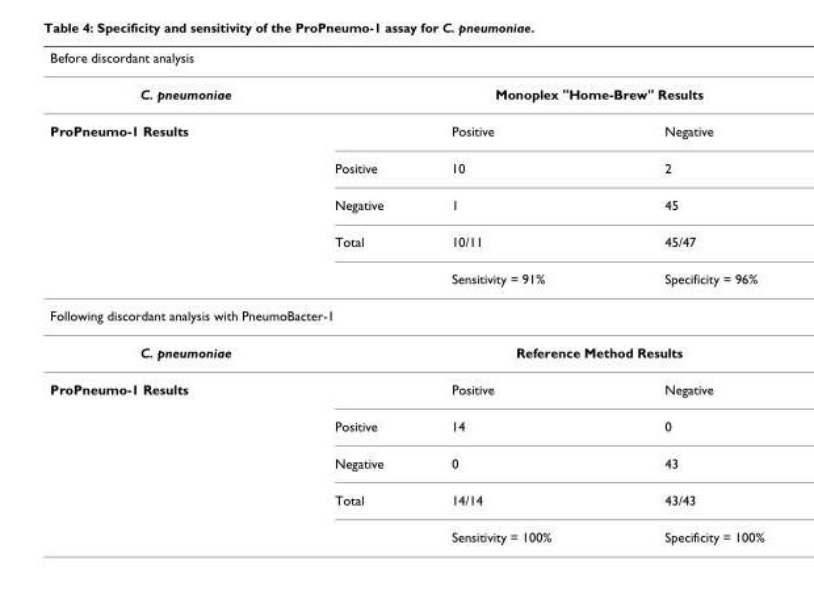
<table><thead><tr><td colspan="4">Before discordant analysis</td></tr><tr><td rowspan="2">C. pneumoniae ProPneumo-1 Results</td><td colspan="3">Monoplex &quot;Home-Brew&quot; Results</td></tr><tr><td></td><td>Positive</td><td>Negative</td></tr></thead><tbody><tr><td></td><td>Positive</td><td>10</td><td>2</td></tr><tr><td></td><td>Negative</td><td>1</td><td>45</td></tr><tr><td></td><td>Total</td><td>10/11</td><td>45/47</td></tr><tr><td></td><td></td><td>Sensitivity = 91%</td><td>Specificity = 96%</td></tr><tr><td colspan="4">Following discordant analysis with PneumoBacter-1</td></tr><tr><td>C. pneumoniae</td><td colspan="3">Reference Method Results</td></tr><tr><td rowspan="5">ProPneumo-1 Results</td><td></td><td>Positive</td><td>Negative</td></tr><tr><td>Positive</td><td>14</td><td>0</td></tr><tr><td>Negative</td><td>0</td><td>43</td></tr><tr><td>Total</td><td>14/14</td><td>43/43</td></tr><tr><td></td><td>Sensitivity = 100%</td><td>Specificity = 100%</td></tr></tbody></table>